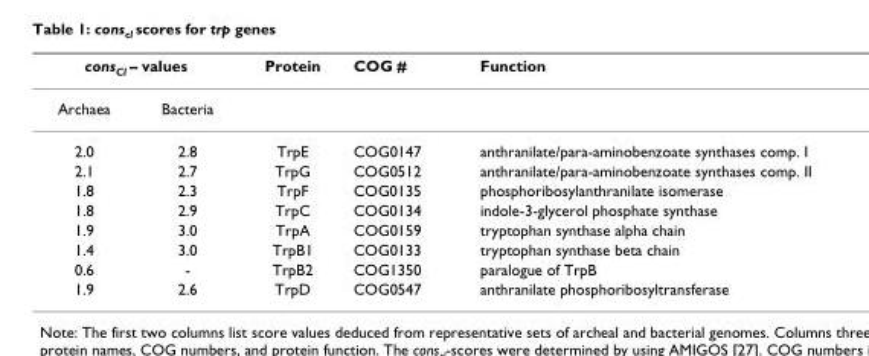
<table><thead><tr><td colspan="2">cons<sub>Cl</sub> – values</td><td rowspan="2">Protein</td><td rowspan="2">COG #</td><td rowspan="2">Function</td></tr><tr><td>Archaea</td><td>Bacteria</td></tr></thead><tbody><tr><td>2.0</td><td>2.8</td><td>TrpE</td><td>COG0147</td><td>anthranilate/para-aminobenzoate synthases comp. I</td></tr><tr><td>2.1</td><td>2.7</td><td>TrpG</td><td>COG0512</td><td>anthranilate/para-aminobenzoate synthases comp. II</td></tr><tr><td>1.8</td><td>2.3</td><td>TrpF</td><td>COG0135</td><td>phosphoribosylanthranilate isomerase</td></tr><tr><td>1.8</td><td>2.9</td><td>TrpC</td><td>COG0134</td><td>indole-3-glycerol phosphate synthase</td></tr><tr><td>1.9</td><td>3.0</td><td>TrpA</td><td>COG0159</td><td>tryptophan synthase alpha chain</td></tr><tr><td>1.4</td><td>3.0</td><td>TrpB1</td><td>COG0133</td><td>tryptophan synthase beta chain</td></tr><tr><td>0.6</td><td>-</td><td>TrpB2</td><td>COG1350</td><td>paralogue of TrpB</td></tr><tr><td>1.9</td><td>2.6</td><td>TrpD</td><td>COG0547</td><td>anthranilate phosphoribosyltransferase</td></tr></tbody></table>